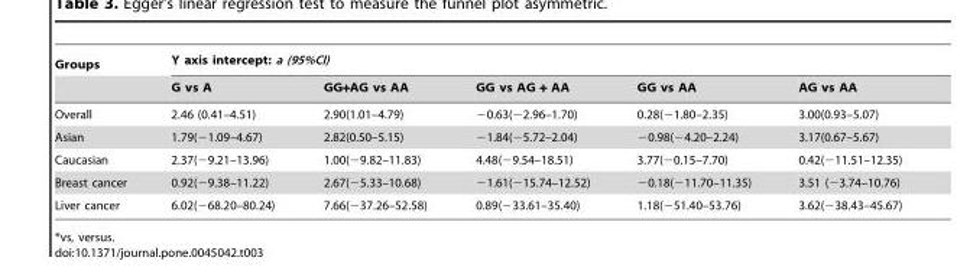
<table><thead><tr><td rowspan="2">Groups</td><td colspan="5">Y axis intercept: a (95%CI)</td></tr><tr><td>G vs A</td><td>GG+AG vs AA</td><td>GG vs AG + AA</td><td>GG vs AA</td><td>AG vs AA</td></tr></thead><tbody><tr><td>Overall</td><td>2.46 (0.41–4.51)</td><td>2.90(1.01–4.79)</td><td>−0.63(−2.96–1.70)</td><td>0.28(−1.80–2.35)</td><td>3.00(0.93–5.07)</td></tr><tr><td>Asian</td><td>1.79(−1.09–4.67)</td><td>2.82(0.50–5.15)</td><td>−1.84(−5.72–2.04)</td><td>−0.98(−4.20–2.24)</td><td>3.17(0.67–5.67)</td></tr><tr><td>Caucasian</td><td>2.37(−9.21–13.96)</td><td>1.00(−9.82–11.83)</td><td>4.48(−9.54–18.51)</td><td>3.77(−0.15–7.70)</td><td>0.42(−11.51–12.35)</td></tr><tr><td>Breast cancer</td><td>0.92(−9.38–11.22)</td><td>2.67(−5.33–10.68)</td><td>−1.61(−15.74–12.52)</td><td>−0.18(−11.70–11.35)</td><td>3.51 (−3.74–10.76)</td></tr><tr><td>Liver cancer</td><td>6.02(−68.20–80.24)</td><td>7.66(−37.26–52.58)</td><td>0.89(−33.61–35.40)</td><td>1.18(−51.40–53.76)</td><td>3.62(−38.43–45.67)</td></tr></tbody></table>